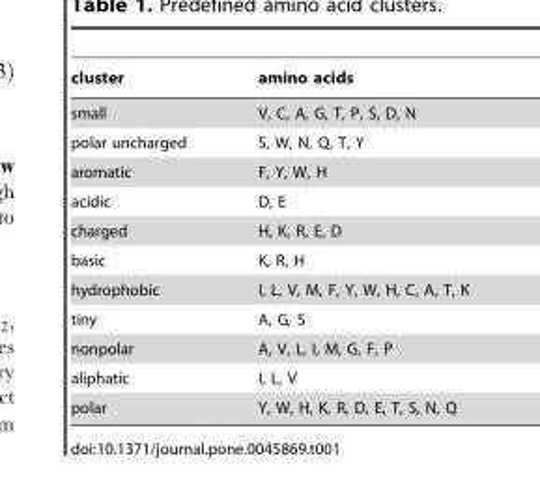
<table><thead><tr><td>cluster</td><td>amino acids</td></tr></thead><tbody><tr><td>small</td><td>V, C, A, G, T, P, S, D, N</td></tr><tr><td>polar uncharged</td><td>S, W, N, Q, T, Y</td></tr><tr><td>aromatic</td><td>F, Y, W, H</td></tr><tr><td>acidic</td><td>D, E</td></tr><tr><td>charged</td><td>H, K, R, E, D</td></tr><tr><td>basic</td><td>K, R, H</td></tr><tr><td>hydrophobic</td><td>I, L, V, M, F, Y, W, H, C, A, T, K</td></tr><tr><td>tiny</td><td>A, G, S</td></tr><tr><td>nonpolar</td><td>A, V, L, I, M, G, F, P</td></tr><tr><td>aliphatic</td><td>I, L, V</td></tr><tr><td>polar</td><td>Y, W, H, K, R, D, E, T, S, N, Q</td></tr></tbody></table>